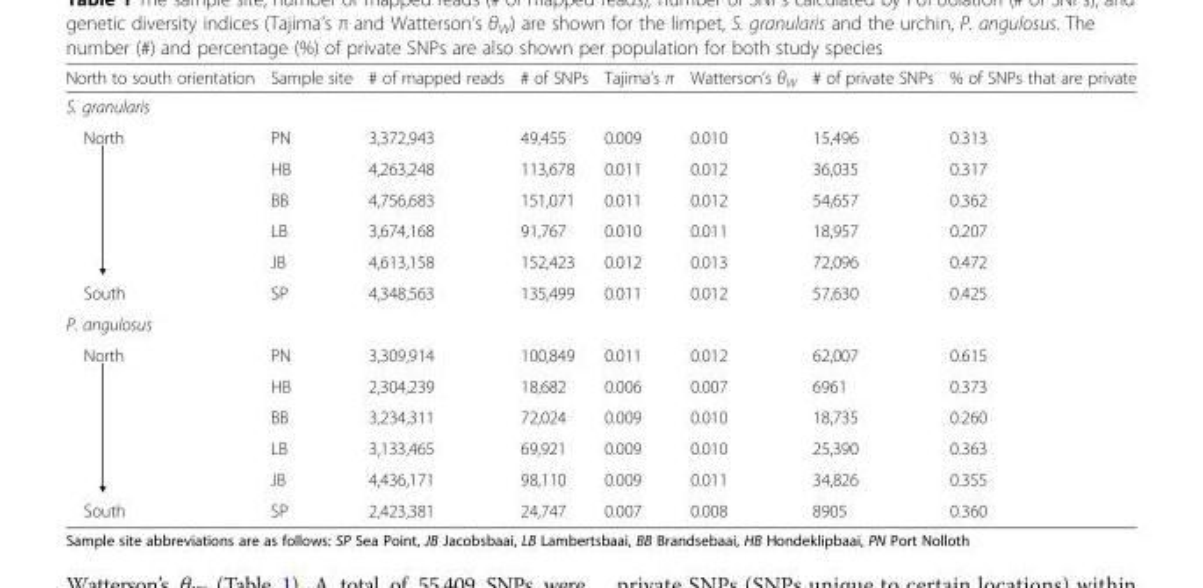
<table><thead><tr><td>North to south orientation</td><td>Sample site</td><td># of mapped reads</td><td># of SNPs</td><td>Tajima’s π</td><td>Watterson’s θ<sub>W</sub></td><td># of private SNPs</td><td>% of SNPs that are private</td></tr></thead><tbody><tr><td colspan="8">S. granularis</td></tr><tr><td rowspan="5">North</td><td>PN</td><td>3,372,943</td><td>49,455</td><td>0.009</td><td>0.010</td><td>15,496</td><td>0.313</td></tr><tr><td>HB</td><td>4,263,248</td><td>113,678</td><td>0.011</td><td>0.012</td><td>36,035</td><td>0.317</td></tr><tr><td>BB</td><td>4,756,683</td><td>151,071</td><td>0.011</td><td>0.012</td><td>54,657</td><td>0.362</td></tr><tr><td>LB</td><td>3,674,168</td><td>91,767</td><td>0.010</td><td>0.011</td><td>18,957</td><td>0.207</td></tr><tr><td>JB</td><td>4,613,158</td><td>152,423</td><td>0.012</td><td>0.013</td><td>72,096</td><td>0.472</td></tr><tr><td>South</td><td>SP</td><td>4,348,563</td><td>135,499</td><td>0.011</td><td>0.012</td><td>57,630</td><td>0.425</td></tr><tr><td colspan="8">P. angulosus</td></tr><tr><td rowspan="5">North</td><td>PN</td><td>3,309,914</td><td>100,849</td><td>0.011</td><td>0.012</td><td>62,007</td><td>0.615</td></tr><tr><td>HB</td><td>2,304,239</td><td>18,682</td><td>0.006</td><td>0.007</td><td>6961</td><td>0.373</td></tr><tr><td>BB</td><td>3,234,311</td><td>72,024</td><td>0.009</td><td>0.010</td><td>18,735</td><td>0.260</td></tr><tr><td>LB</td><td>3,133,465</td><td>69,921</td><td>0.009</td><td>0.010</td><td>25,390</td><td>0.363</td></tr><tr><td>JB</td><td>4,436,171</td><td>98,110</td><td>0.009</td><td>0.011</td><td>34,826</td><td>0.355</td></tr><tr><td>South</td><td>SP</td><td>2,423,381</td><td>24,747</td><td>0.007</td><td>0.008</td><td>8905</td><td>0.360</td></tr></tbody></table>